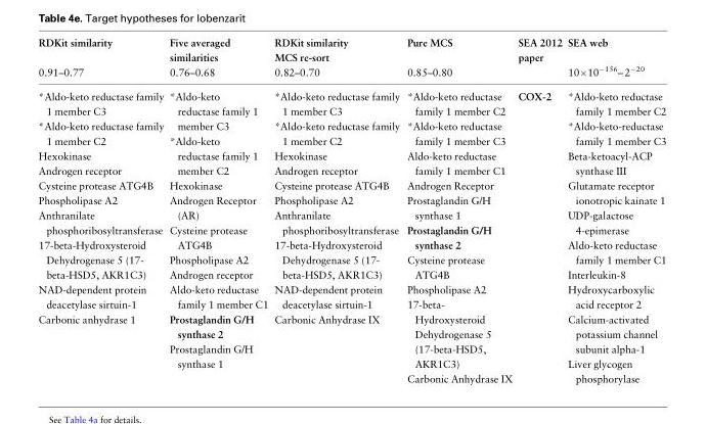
<table><thead><tr><td rowspan="3">RDKit similarity 0.91–0.77</td><td rowspan="3">Five averaged similarities 0.76–0.68</td><td rowspan="3">RDKit similarity MCS re-sort 0.82–0.70</td><td rowspan="3">Pure MCS 0.85–0.80</td><td rowspan="3">SEA 2012 paper</td><td rowspan="3">SEA web 10×10<sup>−156</sup>– 2<sup>−20</sup></td></tr><tr></tr><tr></tr></thead><tbody><tr><td>*Aldo-keto reductase family 1 member C3 *Aldo-keto reductase family 1 member C2 Hexokinase Androgen receptor Cysteine protease ATG4B Phospholipase A2 Anthranilate phosphoribosyltransferase 17-beta-Hydroxysteroid Dehydrogenase 5 (17- beta-HSD5, AKR1C3) NAD-dependent protein deacetylase sirtuin-1 Carbonic anhydrase 1</td><td>*Aldo-keto reductase family 1 member C3 *Aldo-keto reductase family 1 member C2 Hexokinase Androgen Receptor (AR) Cysteine protease ATG4B Phospholipase A2 Androgen receptor Aldo-keto reductase family 1 member C1 Prostaglandin G/H synthase 2 Prostaglandin G/H synthase 1</td><td>*Aldo-keto reductase family 1 member C3 *Aldo-keto reductase family 1 member C2 Hexokinase Androgen receptor Cysteine protease ATG4B Phospholipase A2 Anthranilate phosphoribosyltransferase 17-beta-Hydroxysteroid Dehydrogenase 5 (17- beta-HSD5, AKR1C3) NAD-dependent protein deacetylase sirtuin-1 Carbonic Anhydrase IX</td><td>*Aldo-keto reductase family 1 member C2 *Aldo-keto reductase family 1 member C3 Aldo-keto reductase family 1 member C1 Androgen Receptor Prostaglandin G/H synthase 1 Prostaglandin G/H synthase 2 Cysteine protease ATG4B Phospholipase A2 17-beta- Hydroxysteroid Dehydrogenase 5 (17-beta-HSD5, AKR1C3) Carbonic Anhydrase IX</td><td>COX-2</td><td>*Aldo-keto reductase family 1 member C2 *Aldo-keto-reductase family 1 member C3 Beta-ketoacyl-ACP synthase III Glutamate receptor ionotropic kainate 1 UDP-galactose 4-epimerase Aldo-keto reductase family 1 member C1 Interleukin-8 Hydroxycarboxylic acid receptor 2 Calcium-activated potassium channel subunit alpha-1 Liver glycogen phosphorylase</td></tr></tbody></table>